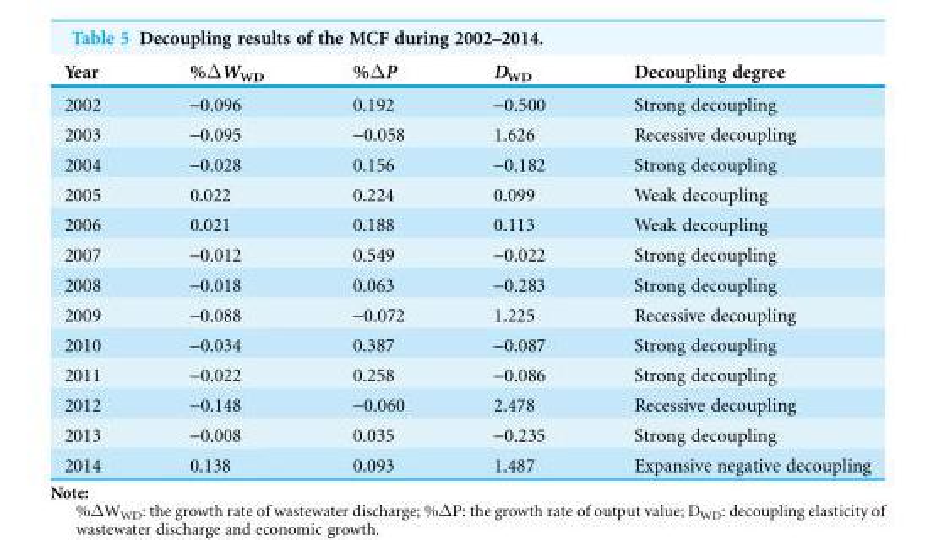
<table><thead><tr><td>Year</td><td>%ΔW<sub>WD</sub></td><td>%ΔP</td><td>D<sub>WD</sub></td><td>Decoupling degree</td></tr></thead><tbody><tr><td>2002</td><td>-0.096</td><td>0.192</td><td>-0.500</td><td>Strong decoupling</td></tr><tr><td>2003</td><td>-0.095</td><td>-0.058</td><td>1.626</td><td>Recessive decoupling</td></tr><tr><td>2004</td><td>-0.028</td><td>0.156</td><td>-0.182</td><td>Strong decoupling</td></tr><tr><td>2005</td><td>0.022</td><td>0.224</td><td>0.099</td><td>Weak decoupling</td></tr><tr><td>2006</td><td>0.021</td><td>0.188</td><td>0.113</td><td>Weak decoupling</td></tr><tr><td>2007</td><td>-0.012</td><td>0.549</td><td>-0.022</td><td>Strong decoupling</td></tr><tr><td>2008</td><td>-0.018</td><td>0.063</td><td>-0.283</td><td>Strong decoupling</td></tr><tr><td>2009</td><td>-0.088</td><td>-0.072</td><td>1.225</td><td>Recessive decoupling</td></tr><tr><td>2010</td><td>-0.034</td><td>0.387</td><td>-0.087</td><td>Strong decoupling</td></tr><tr><td>2011</td><td>-0.022</td><td>0.258</td><td>-0.086</td><td>Strong decoupling</td></tr><tr><td>2012</td><td>-0.148</td><td>-0.060</td><td>2.478</td><td>Recessive decoupling</td></tr><tr><td>2013</td><td>-0.008</td><td>0.035</td><td>-0.235</td><td>Strong decoupling</td></tr><tr><td>2014</td><td>0.138</td><td>0.093</td><td>1.487</td><td>Expansive negative decoupling</td></tr></tbody></table>